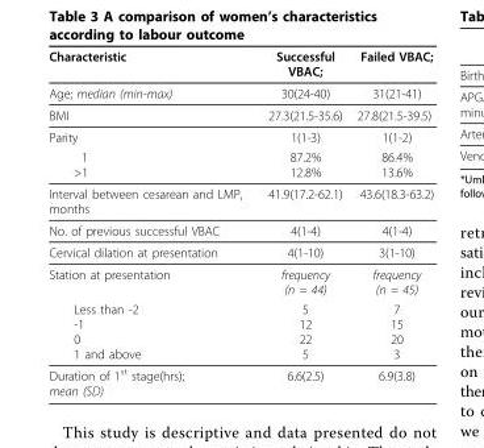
<table><thead><tr><td>Characteristic</td><td>Successful VBAC;</td><td>Failed VBAC;</td></tr></thead><tbody><tr><td>Age; median (min-max)</td><td>30(24-40)</td><td>31(21-41)</td></tr><tr><td>BMI</td><td>27.3(21.5-35.6)</td><td>27.8(21.5-39.5)</td></tr><tr><td>Parity</td><td>1(1-3)</td><td>1(1-2)</td></tr><tr><td>1 &gt;1</td><td>87.2% 12.8%</td><td>86.4% 13.6%</td></tr><tr><td>Interval between cesarean and LMP, months</td><td>41.9(17.2-62.1)</td><td>43.6(18.3-63.2)</td></tr><tr><td>No. of previous successful VBAC</td><td>4(1-4)</td><td>4(1-4)</td></tr><tr><td>Cervical dilation at presentation</td><td>4(1-10)</td><td>3(1-10)</td></tr><tr><td>Station at presentation</td><td>frequency (n = 44)</td><td>frequency (n = 45)</td></tr><tr><td>Less than -2 -1 0 1 and above</td><td>5 12 22 5</td><td>7 15 20 3</td></tr><tr><td>Duration of 1<sup>st</sup> stage(hrs); mean (SD)</td><td>6.6(2.5)</td><td>6.9(3.8)</td></tr></tbody></table>